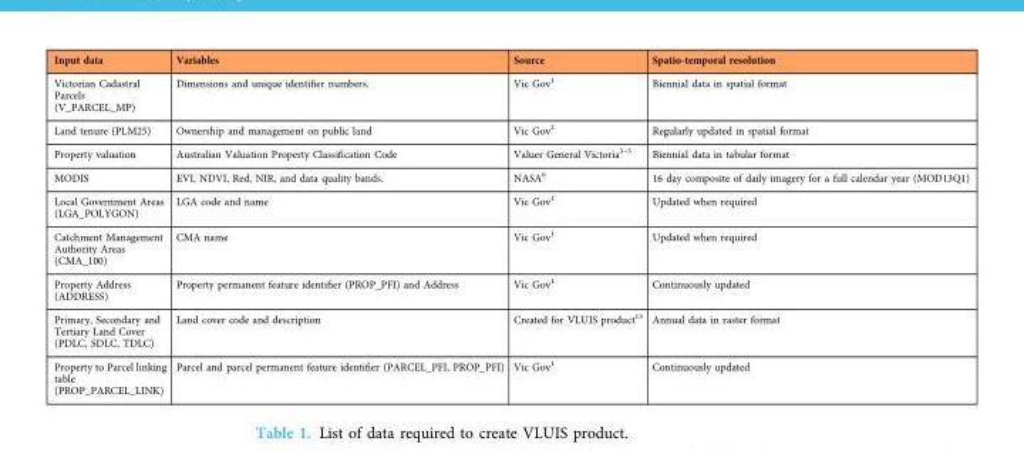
<table><thead><tr><td>Input data</td><td>Variables</td><td>Source</td><td>Spatio-temporal resolution</td></tr></thead><tbody><tr><td>Victorian Cadastral Parcels (V_PARCEL_MP)</td><td>Dimensions and unique identifier numbers.</td><td>Vic Gov<sup>1</sup></td><td>Biennial data in spatial format</td></tr><tr><td>Land tenure (PLM25)</td><td>Ownership and management on public land</td><td>Vic Gov<sup>2</sup></td><td>Regularly updated in spatial format</td></tr><tr><td>Property valuation</td><td>Australian Valuation Property Classification Code</td><td>Valuer General Victoria<sup>3–5</sup></td><td>Biennial data in tabular format</td></tr><tr><td>MODIS</td><td>EVI, NDVI, Red, NIR, and data quality bands.</td><td>NASA<sup>6</sup></td><td>16 day composite of daily imagery for a full calendar year (MOD13Q1)</td></tr><tr><td>Local Government Areas (LGA_POLYGON)</td><td>LGA code and name</td><td>Vic Gov<sup>1</sup></td><td>Updated when required</td></tr><tr><td>Catchment Management Authority Areas (CMA_100)</td><td>CMA name</td><td>Vic Gov<sup>1</sup></td><td>Updated when required</td></tr><tr><td>Property Address (ADDRESS)</td><td>Property permanent feature identifier (PROP_PFI) and Address</td><td>Vic Gov<sup>1</sup></td><td>Continuously updated</td></tr><tr><td>Primary, Secondary and Tertiary Land Cover (PDLC, SDLC, TDLC)</td><td>Land cover code and description</td><td>Created for VLUIS product<sup>13</sup></td><td>Annual data in raster format</td></tr><tr><td>Property to Parcel linking table (PROP_PARCEL_LINK)</td><td>Parcel and parcel permanent feature identifier (PARCEL_PFI, PROP_PFI)</td><td>Vic Gov<sup>1</sup></td><td>Continuously updated</td></tr></tbody></table>